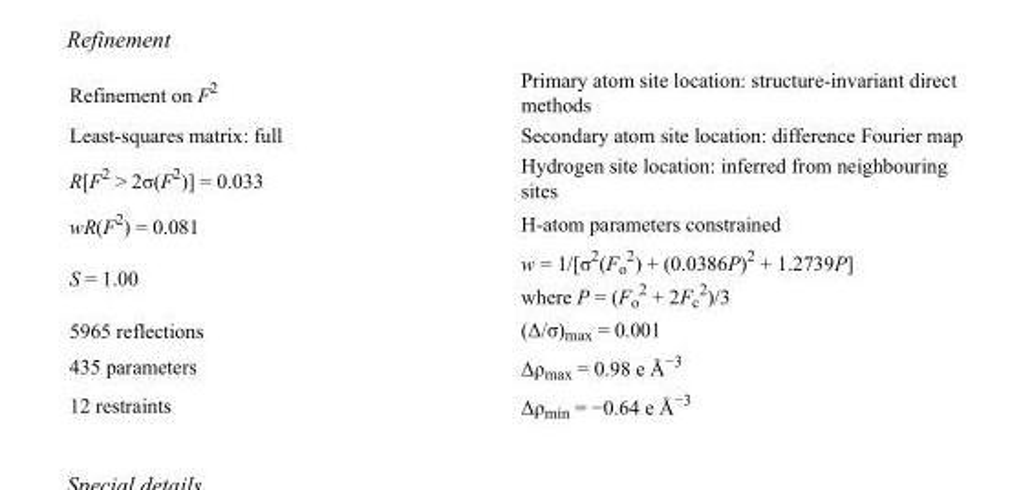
<table><tbody><tr><td>Refinement on F<sup>2</sup></td><td>Primary atom site location: structure-invariant direct methods</td></tr><tr><td>Least-squares matrix: full</td><td>Secondary atom site location: difference Fourier map</td></tr><tr><td>R[F<sup>2</sup> &gt; 2σ(F<sup>2</sup>)] = 0.033</td><td>Hydrogen site location: inferred from neighbouring sites</td></tr><tr><td>wR(F<sup>2</sup>) = 0.081</td><td>H-atom parameters constrained</td></tr><tr><td>S = 1.00</td><td>w = 1/[σ<sup>2</sup>(F<sub>o</sub> <sup>2</sup>) + (0.0386P)<sup>2</sup> + 1.2739P] where P = (F<sub>o</sub> <sup>2</sup> + 2F<sub>c</sub> <sup>2</sup>)/3</td></tr><tr><td>5965 reflections</td><td>(Δ/σ)<sub>max</sub> = 0.001</td></tr><tr><td>435 parameters</td><td>Δρ<sub>max</sub> = 0.98 e Å<sup>−3</sup></td></tr><tr><td>12 restraints</td><td>Δρ<sub>min</sub> = −0.64 e Å<sup>−3</sup></td></tr></tbody></table>